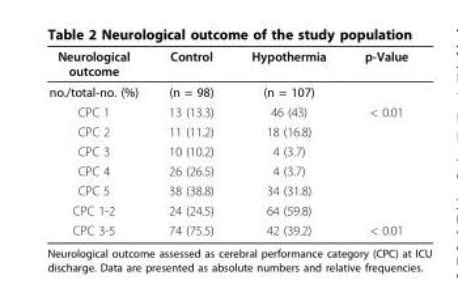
<table><thead><tr><td rowspan="2">Neurological outcome no./total-no. (%)</td><td rowspan="2">Control (n = 98)</td><td rowspan="2">Hypothermia (n = 107)</td><td rowspan="2">p-Value</td></tr><tr></tr></thead><tbody><tr><td>CPC 1</td><td>13 (13.3)</td><td>46 (43)</td><td>&lt; 0.01</td></tr><tr><td>CPC 2</td><td>11 (11.2)</td><td>18 (16.8)</td><td></td></tr><tr><td>CPC 3</td><td>10 (10.2)</td><td>4 (3.7)</td><td></td></tr><tr><td>CPC 4</td><td>26 (26.5)</td><td>4 (3.7)</td><td></td></tr><tr><td>CPC 5</td><td>38 (38.8)</td><td>34 (31.8)</td><td></td></tr><tr><td>CPC 1-2</td><td>24 (24.5)</td><td>64 (59.8)</td><td></td></tr><tr><td>CPC 3-5</td><td>74 (75.5)</td><td>42 (39.2)</td><td>&lt; 0.01</td></tr></tbody></table>